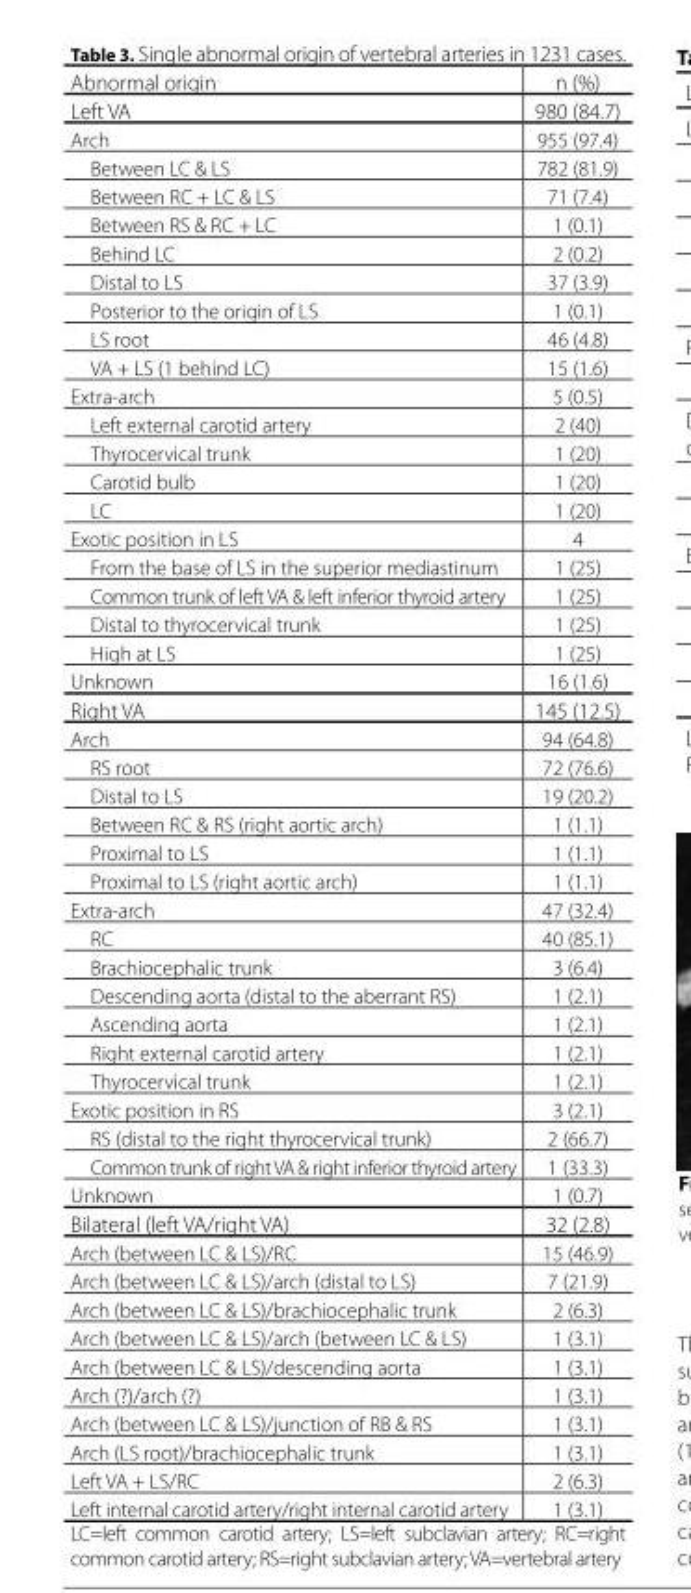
<table><thead><tr><td>Abnormal origin</td><td>n (%)</td></tr></thead><tbody><tr><td>Left VA</td><td>980 (84.7)</td></tr><tr><td>Arch</td><td>955 (97.4)</td></tr><tr><td>Between LC &amp; LS</td><td>782 (81.9)</td></tr><tr><td>Between RC + LC &amp; LS</td><td>71 (7.4)</td></tr><tr><td>Between RS &amp; RC + LC</td><td>1 (0.1)</td></tr><tr><td>Behind LC</td><td>2 (0.2)</td></tr><tr><td>Distal to LS</td><td>37 (3.9)</td></tr><tr><td>Posterior to the origin of LS</td><td>1 (0.1)</td></tr><tr><td>LS root</td><td>46 (4.8)</td></tr><tr><td>VA + LS (1 behind LC)</td><td>15 (1.6)</td></tr><tr><td>Extra-arch</td><td>5 (0.5)</td></tr><tr><td>Left external carotid artery</td><td>2 (40)</td></tr><tr><td>Thyrocervical trunk</td><td>1 (20)</td></tr><tr><td>Carotid bulb</td><td>1 (20)</td></tr><tr><td>LC</td><td>1 (20)</td></tr><tr><td>Exotic position in LS</td><td>4</td></tr><tr><td>From the base of LS in the superior mediastinum</td><td>1 (25)</td></tr><tr><td>Common trunk of left VA &amp; left inferior thyroid artery</td><td>1 (25)</td></tr><tr><td>Distal to thyrocervical trunk</td><td>1 (25)</td></tr><tr><td>High at LS</td><td>1 (25)</td></tr><tr><td>Unknown</td><td>16 (1.6)</td></tr><tr><td>Right VA</td><td>145 (12.5)</td></tr><tr><td>Arch</td><td>94 (64.8)</td></tr><tr><td>RS root</td><td>72 (76.6)</td></tr><tr><td>Distal to LS</td><td>19 (20.2)</td></tr><tr><td>Between RC &amp; RS (right aortic arch)</td><td>1 (1.1)</td></tr><tr><td>Proximal to LS</td><td>1 (1.1)</td></tr><tr><td>Proximal to LS (right aortic arch)</td><td>1 (1.1)</td></tr><tr><td>Extra-arch</td><td>47 (32.4)</td></tr><tr><td>RC</td><td>40 (85.1)</td></tr><tr><td>Brachiocephalic trunk</td><td>3 (6.4)</td></tr><tr><td>Descending aorta (distal to the aberrant RS)</td><td>1 (2.1)</td></tr><tr><td>Ascending aorta</td><td>1 (2.1)</td></tr><tr><td>Right external carotid artery</td><td>1 (2.1)</td></tr><tr><td>Thyrocervical trunk</td><td>1 (2.1)</td></tr><tr><td>Exotic position in RS</td><td>3 (2.1)</td></tr><tr><td>RS (distal to the right thyrocervical trunk)</td><td>2 (66.7)</td></tr><tr><td>Common trunk of right VA &amp; right inferior thyroid artery</td><td>1 (33.3)</td></tr><tr><td>Unknown</td><td>1 (0.7)</td></tr><tr><td>Bilateral (left VA/right VA)</td><td>32 (2.8)</td></tr><tr><td>Arch (between LC &amp; LS)/RC</td><td>15 (46.9)</td></tr><tr><td>Arch (between LC &amp; LS)/arch (distal to LS)</td><td>7 (21.9)</td></tr><tr><td>Arch (between LC &amp; LS)/brachiocephalic trunk</td><td>2 (6.3)</td></tr><tr><td>Arch (between LC &amp; LS)/arch (between LC &amp; LS)</td><td>1 (3.1)</td></tr><tr><td>Arch (between LC &amp; LS)/descending aorta</td><td>1 (3.1)</td></tr><tr><td>Arch (?)/arch (?)</td><td>1 (3.1)</td></tr><tr><td>Arch (between LC &amp; LS)/junction of RB &amp; RS</td><td>1 (3.1)</td></tr><tr><td>Arch (LS root)/brachiocephalic trunk</td><td>1 (3.1)</td></tr><tr><td>Left VA + LS/RC</td><td>2 (6.3)</td></tr><tr><td>Left internal carotid artery/right internal carotid artery</td><td>1 (3.1)</td></tr></tbody></table>